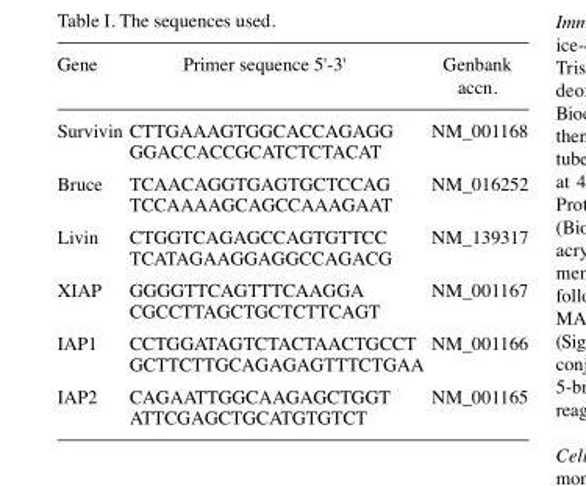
<table><thead><tr><td>Gene</td><td>Primer sequence 5&#x27;-3&#x27;</td><td>Genbank accn.</td></tr></thead><tbody><tr><td rowspan="2">Survivin</td><td>CTTGAAAGTGGCACCAGAGG</td><td>NM_001168</td></tr><tr><td>GGACCACCGCATCTCTACAT</td><td></td></tr><tr><td rowspan="2">Bruce</td><td>TCAACAGGTGAGTGCTCCAG</td><td>NM_016252</td></tr><tr><td>TCCAAAAGCAGCCAAAGAAT</td><td></td></tr><tr><td rowspan="2">Livin</td><td>CTGGTCAGAGCCAGTGTTCC</td><td>NM_139317</td></tr><tr><td>TCATAGAAGGAGGCCAGACG</td><td></td></tr><tr><td rowspan="2">XIAP</td><td>GGGGTTCAGTTTCAAGGA</td><td>NM_001167</td></tr><tr><td>CGCCTTAGCTGCTCTTCAGT</td><td></td></tr><tr><td rowspan="2">IAP1</td><td>CCTGGATAGTCTACTAACTGCCT</td><td>NM_001166</td></tr><tr><td>GCTTCTTGCAGAGAGTTTCTGAA</td><td></td></tr><tr><td rowspan="2">IAP2</td><td>CAGAATTGGCAAGAGCTGGT</td><td>NM_001165</td></tr><tr><td>ATTCGAGCTGCATGTGTCT</td><td></td></tr></tbody></table>